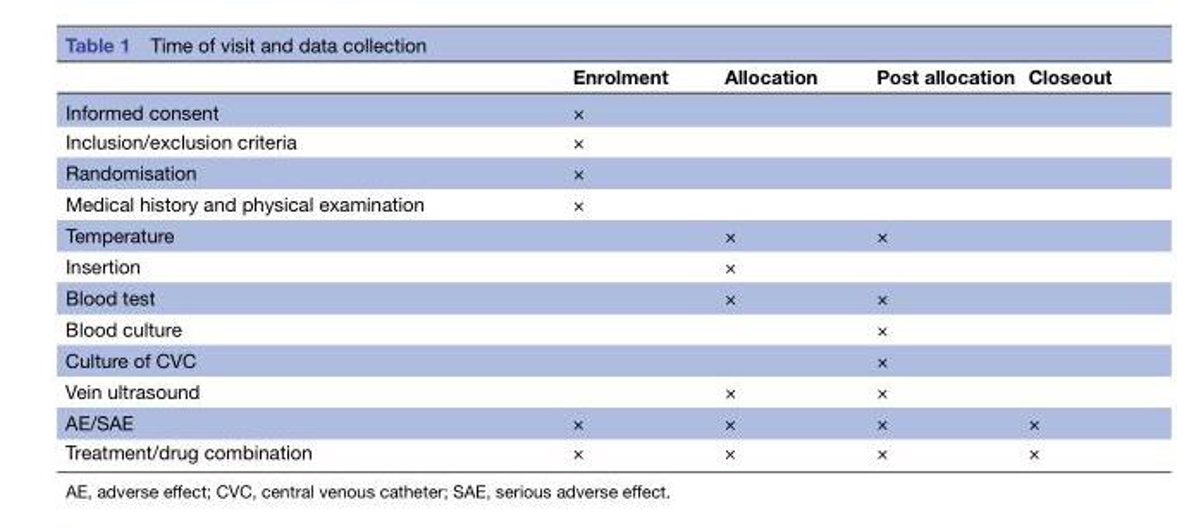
<table><thead><tr><td></td><td>Enrolment</td><td>Allocation</td><td>Post allocation</td><td>Closeout</td></tr></thead><tbody><tr><td>Informed consent</td><td>×</td><td></td><td></td><td></td></tr><tr><td>Inclusion/exclusion criteria</td><td>×</td><td></td><td></td><td></td></tr><tr><td>Randomisation</td><td>×</td><td></td><td></td><td></td></tr><tr><td>Medical history and physical examination</td><td>×</td><td></td><td></td><td></td></tr><tr><td>Temperature</td><td></td><td>×</td><td>×</td><td></td></tr><tr><td>Insertion</td><td></td><td>×</td><td></td><td></td></tr><tr><td>Blood test</td><td></td><td>×</td><td>×</td><td></td></tr><tr><td>Blood culture</td><td></td><td></td><td>×</td><td></td></tr><tr><td>Culture of CVC</td><td></td><td></td><td>×</td><td></td></tr><tr><td>Vein ultrasound</td><td></td><td>×</td><td>×</td><td></td></tr><tr><td>AE/SAE</td><td>×</td><td>×</td><td>×</td><td>×</td></tr><tr><td>Treatment/drug combination</td><td>×</td><td>×</td><td>×</td><td>×</td></tr></tbody></table>